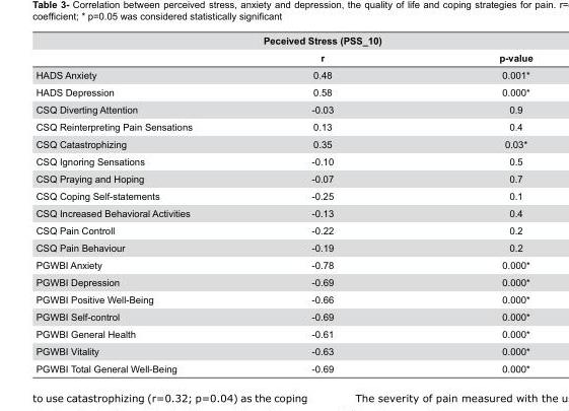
<table><thead><tr><td colspan="3">Peceived Stress (PSS_10)</td></tr><tr><td></td><td>r</td><td>p-value</td></tr></thead><tbody><tr><td>HADS Anxiety</td><td>0.48</td><td>0.001*</td></tr><tr><td>HADS Depression</td><td>0.58</td><td>0.000*</td></tr><tr><td>CSQ Diverting Attention</td><td>-0.03</td><td>0.9</td></tr><tr><td>CSQ Reinterpreting Pain Sensations</td><td>0.13</td><td>0.4</td></tr><tr><td>CSQ Catastrophizing</td><td>0.35</td><td>0.03*</td></tr><tr><td>CSQ Ignoring Sensations</td><td>-0.10</td><td>0.5</td></tr><tr><td>CSQ Praying and Hoping</td><td>-0.07</td><td>0.7</td></tr><tr><td>CSQ Coping Self-statements</td><td>-0.25</td><td>0.1</td></tr><tr><td>CSQ Increased Behavioral Activities</td><td>-0.13</td><td>0.4</td></tr><tr><td>CSQ Pain Controll</td><td>-0.22</td><td>0.2</td></tr><tr><td>CSQ Pain Behaviour</td><td>-0.19</td><td>0.2</td></tr><tr><td>PGWBI Anxiety</td><td>-0.78</td><td>0.000*</td></tr><tr><td>PGWBI Depression</td><td>-0.69</td><td>0.000*</td></tr><tr><td>PGWBI Positive Well-Being</td><td>-0.66</td><td>0.000*</td></tr><tr><td>PGWBI Self-control</td><td>-0.69</td><td>0.000*</td></tr><tr><td>PGWBI General Health</td><td>-0.61</td><td>0.000*</td></tr><tr><td>PGWBI Vitality</td><td>-0.63</td><td>0.000*</td></tr><tr><td>PGWBI Total General Well-Being</td><td>-0.69</td><td>0.000*</td></tr></tbody></table>